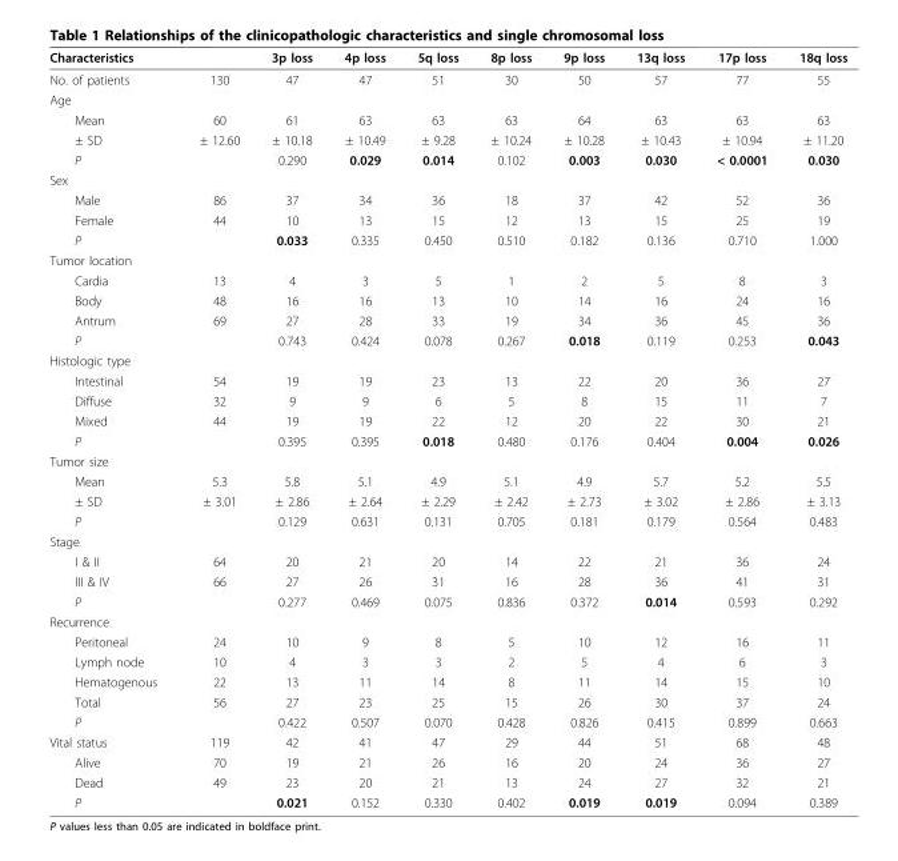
<table><thead><tr><td>Characteristics</td><td></td><td>3p loss</td><td>4p loss</td><td>5q loss</td><td>8p loss</td><td>9p loss</td><td>13q loss</td><td>17p loss</td><td>18q loss</td></tr></thead><tbody><tr><td>No. of patients</td><td>130</td><td>47</td><td>47</td><td>51</td><td>30</td><td>50</td><td>57</td><td>77</td><td>55</td></tr><tr><td colspan="10">Age</td></tr><tr><td>Mean</td><td>60</td><td>61</td><td>63</td><td>63</td><td>63</td><td>64</td><td>63</td><td>63</td><td>63</td></tr><tr><td>± SD</td><td>± 12.60</td><td>± 10.18</td><td>± 10.49</td><td>± 9.28</td><td>± 10.24</td><td>± 10.28</td><td>± 10.43</td><td>± 10.94</td><td>± 11.20</td></tr><tr><td>P</td><td></td><td>0.290</td><td>0.029</td><td>0.014</td><td>0.102</td><td>0.003</td><td>0.030</td><td>&lt; 0.0001</td><td>0.030</td></tr><tr><td colspan="10">Sex</td></tr><tr><td>Male</td><td>86</td><td>37</td><td>34</td><td>36</td><td>18</td><td>37</td><td>42</td><td>52</td><td>36</td></tr><tr><td>Female</td><td>44</td><td>10</td><td>13</td><td>15</td><td>12</td><td>13</td><td>15</td><td>25</td><td>19</td></tr><tr><td>P</td><td></td><td>0.033</td><td>0.335</td><td>0.450</td><td>0.510</td><td>0.182</td><td>0.136</td><td>0.710</td><td>1.000</td></tr><tr><td colspan="10">Tumor location</td></tr><tr><td>Cardia</td><td>13</td><td>4</td><td>3</td><td>5</td><td>1</td><td>2</td><td>5</td><td>8</td><td>3</td></tr><tr><td>Body</td><td>48</td><td>16</td><td>16</td><td>13</td><td>10</td><td>14</td><td>16</td><td>24</td><td>16</td></tr><tr><td>Antrum</td><td>69</td><td>27</td><td>28</td><td>33</td><td>19</td><td>34</td><td>36</td><td>45</td><td>36</td></tr><tr><td>P</td><td></td><td>0.743</td><td>0.424</td><td>0.078</td><td>0.267</td><td>0.018</td><td>0.119</td><td>0.253</td><td>0.043</td></tr><tr><td colspan="10">Histologic type</td></tr><tr><td>Intestinal</td><td>54</td><td>19</td><td>19</td><td>23</td><td>13</td><td>22</td><td>20</td><td>36</td><td>27</td></tr><tr><td>Diffuse</td><td>32</td><td>9</td><td>9</td><td>6</td><td>5</td><td>8</td><td>15</td><td>11</td><td>7</td></tr><tr><td>Mixed</td><td>44</td><td>19</td><td>19</td><td>22</td><td>12</td><td>20</td><td>22</td><td>30</td><td>21</td></tr><tr><td>P</td><td></td><td>0.395</td><td>0.395</td><td>0.018</td><td>0.480</td><td>0.176</td><td>0.404</td><td>0.004</td><td>0.026</td></tr><tr><td colspan="10">Tumor size</td></tr><tr><td>Mean</td><td>5.3</td><td>5.8</td><td>5.1</td><td>4.9</td><td>5.1</td><td>4.9</td><td>5.7</td><td>5.2</td><td>5.5</td></tr><tr><td>± SD</td><td>± 3.01</td><td>± 2.86</td><td>± 2.64</td><td>± 2.29</td><td>± 2.42</td><td>± 2.73</td><td>± 3.02</td><td>± 2.86</td><td>± 3.13</td></tr><tr><td>P</td><td></td><td>0.129</td><td>0.631</td><td>0.131</td><td>0.705</td><td>0.181</td><td>0.179</td><td>0.564</td><td>0.483</td></tr><tr><td colspan="10">Stage</td></tr><tr><td>I &amp; II</td><td>64</td><td>20</td><td>21</td><td>20</td><td>14</td><td>22</td><td>21</td><td>36</td><td>24</td></tr><tr><td>III &amp; IV</td><td>66</td><td>27</td><td>26</td><td>31</td><td>16</td><td>28</td><td>36</td><td>41</td><td>31</td></tr><tr><td>P</td><td></td><td>0.277</td><td>0.469</td><td>0.075</td><td>0.836</td><td>0.372</td><td>0.014</td><td>0.593</td><td>0.292</td></tr><tr><td colspan="10">Recurrence</td></tr><tr><td>Peritoneal</td><td>24</td><td>10</td><td>9</td><td>8</td><td>5</td><td>10</td><td>12</td><td>16</td><td>11</td></tr><tr><td>Lymph node</td><td>10</td><td>4</td><td>3</td><td>3</td><td>2</td><td>5</td><td>4</td><td>6</td><td>3</td></tr><tr><td>Hematogenous</td><td>22</td><td>13</td><td>11</td><td>14</td><td>8</td><td>11</td><td>14</td><td>15</td><td>10</td></tr><tr><td>Total</td><td>56</td><td>27</td><td>23</td><td>25</td><td>15</td><td>26</td><td>30</td><td>37</td><td>24</td></tr><tr><td>P</td><td></td><td>0.422</td><td>0.507</td><td>0.070</td><td>0.428</td><td>0.826</td><td>0.415</td><td>0.899</td><td>0.663</td></tr><tr><td>Vital status</td><td>119</td><td>42</td><td>41</td><td>47</td><td>29</td><td>44</td><td>51</td><td>68</td><td>48</td></tr><tr><td>Alive</td><td>70</td><td>19</td><td>21</td><td>26</td><td>16</td><td>20</td><td>24</td><td>36</td><td>27</td></tr><tr><td>Dead</td><td>49</td><td>23</td><td>20</td><td>21</td><td>13</td><td>24</td><td>27</td><td>32</td><td>21</td></tr><tr><td>P</td><td></td><td>0.021</td><td>0.152</td><td>0.330</td><td>0.402</td><td>0.019</td><td>0.019</td><td>0.094</td><td>0.389</td></tr></tbody></table>